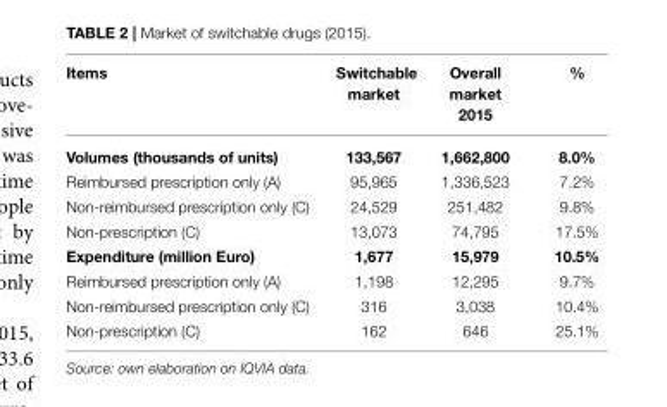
<table><thead><tr><td>Items</td><td>Switchable market</td><td>Overall market 2015</td><td>%</td></tr></thead><tbody><tr><td>Volumes (thousands of units)</td><td>133,567</td><td>1,662,800</td><td>8.0%</td></tr><tr><td>Reimbursed prescription only (A)</td><td>95,965</td><td>1,336,523</td><td>7.2%</td></tr><tr><td>Non-reimbursed prescription only (C)</td><td>24,529</td><td>251,482</td><td>9.8%</td></tr><tr><td>Non-prescription (C)</td><td>13,073</td><td>74,795</td><td>17.5%</td></tr><tr><td>Expenditure (million Euro)</td><td>1,677</td><td>15,979</td><td>10.5%</td></tr><tr><td>Reimbursed prescription only (A)</td><td>1,198</td><td>12,295</td><td>9.7%</td></tr><tr><td>Non-reimbursed prescription only (C)</td><td>316</td><td>3,038</td><td>10.4%</td></tr><tr><td>Non-prescription (C)</td><td>162</td><td>646</td><td>25.1%</td></tr></tbody></table>